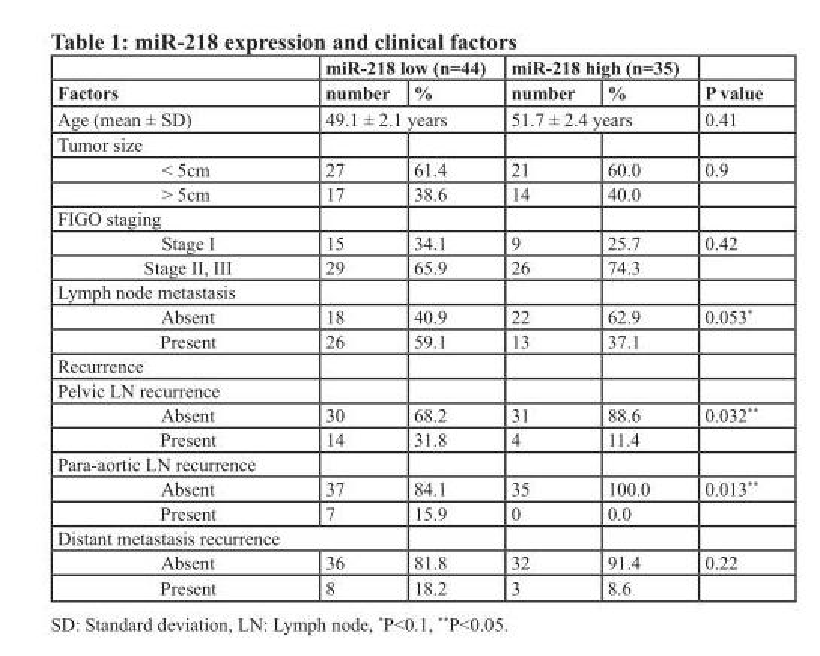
<table><thead><tr><td rowspan="2">Factors</td><td colspan="2">miR-218 low (n=44)</td><td colspan="2">miR-218 high (n=35)</td><td rowspan="2">P value</td></tr><tr><td>number</td><td>%</td><td>number</td><td>%</td></tr></thead><tbody><tr><td>Age (mean ± SD)</td><td colspan="2">49.1 ± 2.1 years</td><td colspan="2">51.7 ± 2.4 years</td><td>0.41</td></tr><tr><td colspan="6">Tumor size</td></tr><tr><td>&lt; 5cm</td><td>27</td><td>61.4</td><td>21</td><td>60.0</td><td>0.9</td></tr><tr><td>&gt; 5cm</td><td>17</td><td>38.6</td><td>14</td><td>40.0</td><td></td></tr><tr><td colspan="6">FIGO staging</td></tr><tr><td>Stage I</td><td>15</td><td>34.1</td><td>9</td><td>25.7</td><td>0.42</td></tr><tr><td>Stage II, III</td><td>29</td><td>65.9</td><td>26</td><td>74.3</td><td></td></tr><tr><td colspan="6">Lymph node metastasis</td></tr><tr><td>Absent</td><td>18</td><td>40.9</td><td>22</td><td>62.9</td><td>0.053*</td></tr><tr><td>Present</td><td>26</td><td>59.1</td><td>13</td><td>37.1</td><td></td></tr><tr><td colspan="6">Recurrence</td></tr><tr><td colspan="6">Pelvic LN recurrence</td></tr><tr><td>Absent</td><td>30</td><td>68.2</td><td>31</td><td>88.6</td><td>0.032**</td></tr><tr><td>Present</td><td>14</td><td>31.8</td><td>4</td><td>11.4</td><td></td></tr><tr><td colspan="6">Para-aortic LN recurrence</td></tr><tr><td>Absent</td><td>37</td><td>84.1</td><td>35</td><td>100.0</td><td>0.013**</td></tr><tr><td>Present</td><td>7</td><td>15.9</td><td>0</td><td>0.0</td><td></td></tr><tr><td colspan="6">Distant metastasis recurrence</td></tr><tr><td>Absent</td><td>36</td><td>81.8</td><td>32</td><td>91.4</td><td>0.22</td></tr><tr><td>Present</td><td>8</td><td>18.2</td><td>3</td><td>8.6</td><td></td></tr></tbody></table>